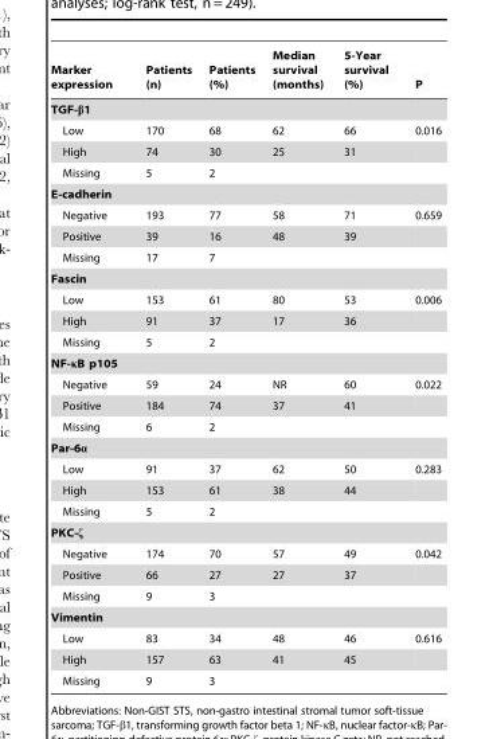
<table><thead><tr><td>Marker expression</td><td>Patients (n)</td><td>Patients (%)</td><td>Median survival (months)</td><td>5-Year survival (%)</td><td>P</td></tr></thead><tbody><tr><td colspan="6">TGF-β1</td></tr><tr><td>Low</td><td>170</td><td>68</td><td>62</td><td>66</td><td>0.016</td></tr><tr><td>High</td><td>74</td><td>30</td><td>25</td><td>31</td><td></td></tr><tr><td>Missing</td><td>5</td><td>2</td><td></td><td></td><td></td></tr><tr><td colspan="6">E-cadherin</td></tr><tr><td>Negative</td><td>193</td><td>77</td><td>58</td><td>71</td><td>0.659</td></tr><tr><td>Positive</td><td>39</td><td>16</td><td>48</td><td>39</td><td></td></tr><tr><td>Missing</td><td>17</td><td>7</td><td></td><td></td><td></td></tr><tr><td colspan="6">Fascin</td></tr><tr><td>Low</td><td>153</td><td>61</td><td>80</td><td>53</td><td>0.006</td></tr><tr><td>High</td><td>91</td><td>37</td><td>17</td><td>36</td><td></td></tr><tr><td>Missing</td><td>5</td><td>2</td><td></td><td></td><td></td></tr><tr><td colspan="6">NF-κB p105</td></tr><tr><td>Negative</td><td>59</td><td>24</td><td>NR</td><td>60</td><td>0.022</td></tr><tr><td>Positive</td><td>184</td><td>74</td><td>37</td><td>41</td><td></td></tr><tr><td>Missing</td><td>6</td><td>2</td><td></td><td></td><td></td></tr><tr><td colspan="6">Par-6α</td></tr><tr><td>Low</td><td>91</td><td>37</td><td>62</td><td>50</td><td>0.283</td></tr><tr><td>High</td><td>153</td><td>61</td><td>38</td><td>44</td><td></td></tr><tr><td>Missing</td><td>5</td><td>2</td><td></td><td></td><td></td></tr><tr><td colspan="6">PKC-ζ</td></tr><tr><td>Negative</td><td>174</td><td>70</td><td>57</td><td>49</td><td>0.042</td></tr><tr><td>Positive</td><td>66</td><td>27</td><td>27</td><td>37</td><td></td></tr><tr><td>Missing</td><td>9</td><td>3</td><td></td><td></td><td></td></tr><tr><td colspan="6">Vimentin</td></tr><tr><td>Low</td><td>83</td><td>34</td><td>48</td><td>46</td><td>0.616</td></tr><tr><td>High</td><td>157</td><td>63</td><td>41</td><td>45</td><td></td></tr><tr><td>Missing</td><td>9</td><td>3</td><td></td><td></td><td></td></tr></tbody></table>